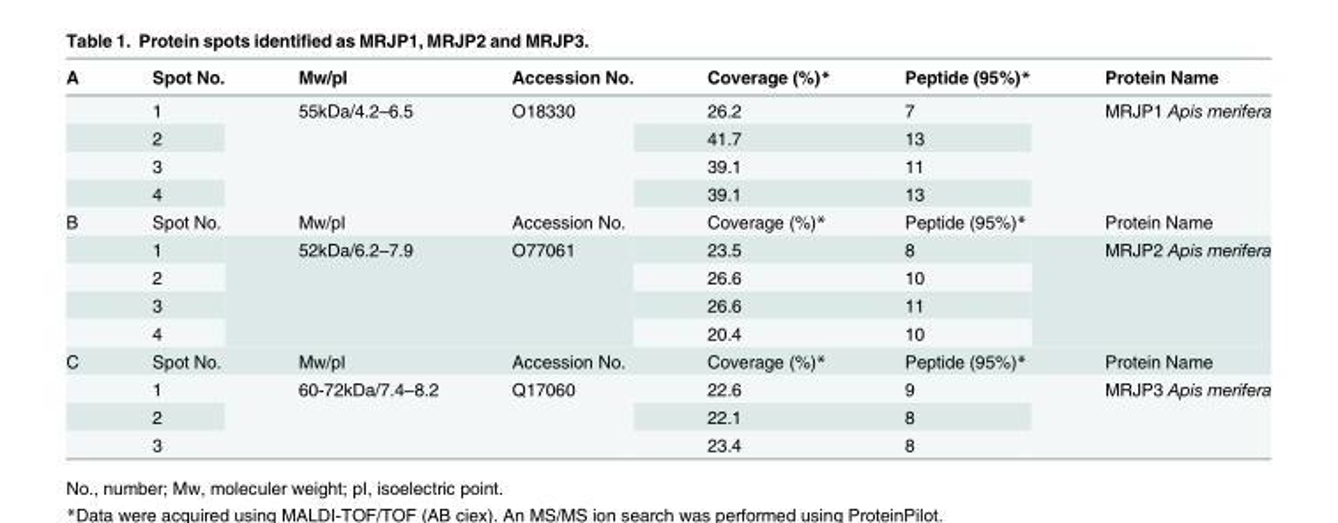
<table><thead><tr><td>A</td><td>Spot No.</td><td>Mw/pI</td><td>Accession No.</td><td>Coverage (%)*</td><td>Peptide (95%)*</td><td>Protein Name</td></tr></thead><tbody><tr><td></td><td>1</td><td rowspan="4">55kDa/4.2–6.5</td><td rowspan="4">O18330</td><td>26.2</td><td>7</td><td rowspan="4">MRJP1 Apis merifera</td></tr><tr><td></td><td>2</td><td>41.7</td><td>13</td></tr><tr><td></td><td>3</td><td>39.1</td><td>11</td></tr><tr><td></td><td>4</td><td>39.1</td><td>13</td></tr><tr><td rowspan="5">B</td><td>Spot No.</td><td>Mw/pI</td><td>Accession No.</td><td>Coverage (%)*</td><td>Peptide (95%)*</td><td>Protein Name</td></tr><tr><td>1</td><td rowspan="4">52kDa/6.2–7.9</td><td rowspan="4">O77061</td><td>23.5</td><td>8</td><td rowspan="4">MRJP2 Apis merifera</td></tr><tr><td>2</td><td>26.6</td><td>10</td></tr><tr><td>3</td><td>26.6</td><td>11</td></tr><tr><td>4</td><td>20.4</td><td>10</td></tr><tr><td rowspan="4">C</td><td>Spot No.</td><td>Mw/pI</td><td>Accession No.</td><td>Coverage (%)*</td><td>Peptide (95%)*</td><td>Protein Name</td></tr><tr><td>1</td><td rowspan="3">60-72kDa/7.4–8.2</td><td rowspan="3">Q17060</td><td>22.6</td><td>9</td><td rowspan="3">MRJP3 Apis merifera</td></tr><tr><td>2</td><td>22.1</td><td>8</td></tr><tr><td>3</td><td>23.4</td><td>8</td></tr></tbody></table>